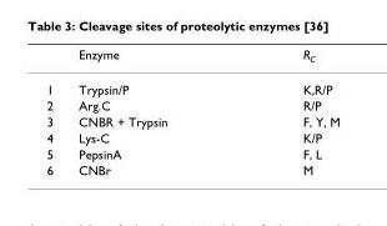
<table><thead><tr><td></td><td>Enzyme</td><td>R<sub>C</sub></td></tr></thead><tbody><tr><td>1</td><td>Trypsin/P</td><td>K,R/P</td></tr><tr><td>2</td><td>Arg.C</td><td>R/P</td></tr><tr><td>3</td><td>CNBR + Trypsin</td><td>F, Y, M</td></tr><tr><td>4</td><td>Lys-C</td><td>K/P</td></tr><tr><td>5</td><td>PepsinA</td><td>F, L</td></tr><tr><td>6</td><td>CNBr</td><td>M</td></tr></tbody></table>